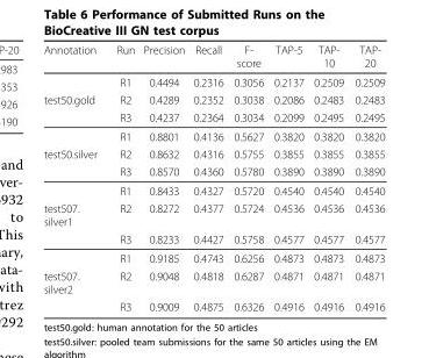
<table><thead><tr><td>Annotation</td><td>Run</td><td>Precision</td><td>Recall</td><td>F- score</td><td>TAP-5</td><td>TAP- 10</td><td>TAP- 20</td></tr></thead><tbody><tr><td></td><td>R1</td><td>0.4494</td><td>0.2316</td><td>0.3056</td><td>0.2137</td><td>0.2509</td><td>0.2509</td></tr><tr><td rowspan="3">test50.gold</td><td>R2</td><td>0.4289</td><td>0.2352</td><td>0.3038</td><td>0.2086</td><td>0.2483</td><td>0.2483</td></tr><tr><td>R3</td><td>0.4237</td><td>0.2364</td><td>0.3034</td><td>0.2099</td><td>0.2495</td><td>0.2495</td></tr><tr><td>R1</td><td>0.8801</td><td>0.4136</td><td>0.5627</td><td>0.3820</td><td>0.3820</td><td>0.3820</td></tr><tr><td rowspan="3">test50.silver</td><td>R2</td><td>0.8632</td><td>0.4316</td><td>0.5755</td><td>0.3855</td><td>0.3855</td><td>0.3855</td></tr><tr><td>R3</td><td>0.8570</td><td>0.4360</td><td>0.5780</td><td>0.3890</td><td>0.3890</td><td>0.3890</td></tr><tr><td>R1</td><td>0.8433</td><td>0.4327</td><td>0.5720</td><td>0.4540</td><td>0.4540</td><td>0.4540</td></tr><tr><td rowspan="3">test507. silver1</td><td>R2</td><td>0.8272</td><td>0.4377</td><td>0.5724</td><td>0.4536</td><td>0.4536</td><td>0.4536</td></tr><tr><td>R3</td><td>0.8233</td><td>0.4427</td><td>0.5758</td><td>0.4577</td><td>0.4577</td><td>0.4577</td></tr><tr><td>R1</td><td>0.9185</td><td>0.4743</td><td>0.6256</td><td>0.4873</td><td>0.4873</td><td>0.4873</td></tr><tr><td rowspan="2">test507. silver2</td><td>R2</td><td>0.9048</td><td>0.4818</td><td>0.6287</td><td>0.4871</td><td>0.4871</td><td>0.4871</td></tr><tr><td>R3</td><td>0.9009</td><td>0.4875</td><td>0.6326</td><td>0.4916</td><td>0.4916</td><td>0.4916</td></tr></tbody></table>